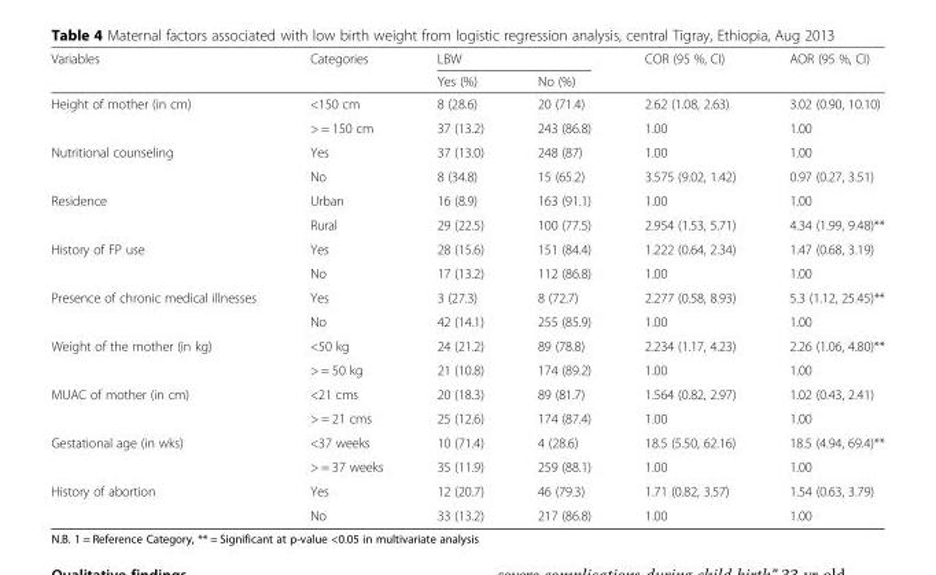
<table><thead><tr><td rowspan="2">Variables</td><td rowspan="2">Categories</td><td colspan="2">LBW</td><td rowspan="2">COR (95 %, CI)</td><td rowspan="2">AOR (95 %, CI)</td></tr><tr><td>Yes (%)</td><td>No (%)</td></tr></thead><tbody><tr><td rowspan="2">Height of mother (in cm)</td><td>&lt;150 cm</td><td>8 (28.6)</td><td>20 (71.4)</td><td>2.62 (1.08, 2.63)</td><td>3.02 (0.90, 10.10)</td></tr><tr><td>&gt; = 150 cm</td><td>37 (13.2)</td><td>243 (86.8)</td><td>1.00</td><td>1.00</td></tr><tr><td rowspan="2">Nutritional counseling</td><td>Yes</td><td>37 (13.0)</td><td>248 (87)</td><td>1.00</td><td>1.00</td></tr><tr><td>No</td><td>8 (34.8)</td><td>15 (65.2)</td><td>3.575 (9.02, 1.42)</td><td>0.97 (0.27, 3.51)</td></tr><tr><td rowspan="2">Residence</td><td>Urban</td><td>16 (8.9)</td><td>163 (91.1)</td><td>1.00</td><td>1.00</td></tr><tr><td>Rural</td><td>29 (22.5)</td><td>100 (77.5)</td><td>2.954 (1.53, 5.71)</td><td>4.34 (1.99, 9.48)**</td></tr><tr><td rowspan="2">History of FP use</td><td>Yes</td><td>28 (15.6)</td><td>151 (84.4)</td><td>1.222 (0.64, 2.34)</td><td>1.47 (0.68, 3.19)</td></tr><tr><td>No</td><td>17 (13.2)</td><td>112 (86.8)</td><td>1.00</td><td>1.00</td></tr><tr><td rowspan="2">Presence of chronic medical illnesses</td><td>Yes</td><td>3 (27.3)</td><td>8 (72.7)</td><td>2.277 (0.58, 8.93)</td><td>5.3 (1.12, 25.45)**</td></tr><tr><td>No</td><td>42 (14.1)</td><td>255 (85.9)</td><td>1.00</td><td>1.00</td></tr><tr><td rowspan="2">Weight of the mother (in kg)</td><td>&lt;50 kg</td><td>24 (21.2)</td><td>89 (78.8)</td><td>2.234 (1.17, 4.23)</td><td>2.26 (1.06, 4.80)**</td></tr><tr><td>&gt; = 50 kg</td><td>21 (10.8)</td><td>174 (89.2)</td><td>1.00</td><td>1.00</td></tr><tr><td rowspan="2">MUAC of mother (in cm)</td><td>&lt;21 cms</td><td>20 (18.3)</td><td>89 (81.7)</td><td>1.564 (0.82, 2.97)</td><td>1.02 (0.43, 2.41)</td></tr><tr><td>&gt; = 21 cms</td><td>25 (12.6)</td><td>174 (87.4)</td><td>1.00</td><td>1.00</td></tr><tr><td rowspan="2">Gestational age (in wks)</td><td>&lt;37 weeks</td><td>10 (71.4)</td><td>4 (28.6)</td><td>18.5 (5.50, 62.16)</td><td>18.5 (4.94, 69.4)**</td></tr><tr><td>&gt; = 37 weeks</td><td>35 (11.9)</td><td>259 (88.1)</td><td>1.00</td><td>1.00</td></tr><tr><td rowspan="2">History of abortion</td><td>Yes</td><td>12 (20.7)</td><td>46 (79.3)</td><td>1.71 (0.82, 3.57)</td><td>1.54 (0.63, 3.79)</td></tr><tr><td>No</td><td>33 (13.2)</td><td>217 (86.8)</td><td>1.00</td><td>1.00</td></tr></tbody></table>